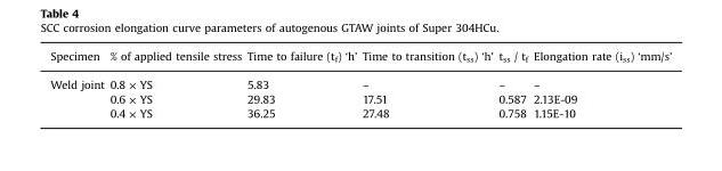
<table><thead><tr><td>Specimen</td><td>% of applied tensile stress</td><td>Time to failure (t<sub>f</sub>) ‘h’</td><td>Time to transition (t<sub>ss</sub>) ‘h’</td><td>t<sub>ss</sub> / t<sub>f</sub></td><td>Elongation rate (i<sub>ss</sub>) ‘mm/s’</td></tr></thead><tbody><tr><td rowspan="3">Weld joint</td><td>0.8 × YS</td><td>5.83</td><td>–</td><td>–</td><td>–</td></tr><tr><td>0.6 × YS</td><td>29.83</td><td>17.51</td><td>0.587</td><td>2.13E-09</td></tr><tr><td>0.4 × YS</td><td>36.25</td><td>27.48</td><td>0.758</td><td>1.15E-10</td></tr></tbody></table>